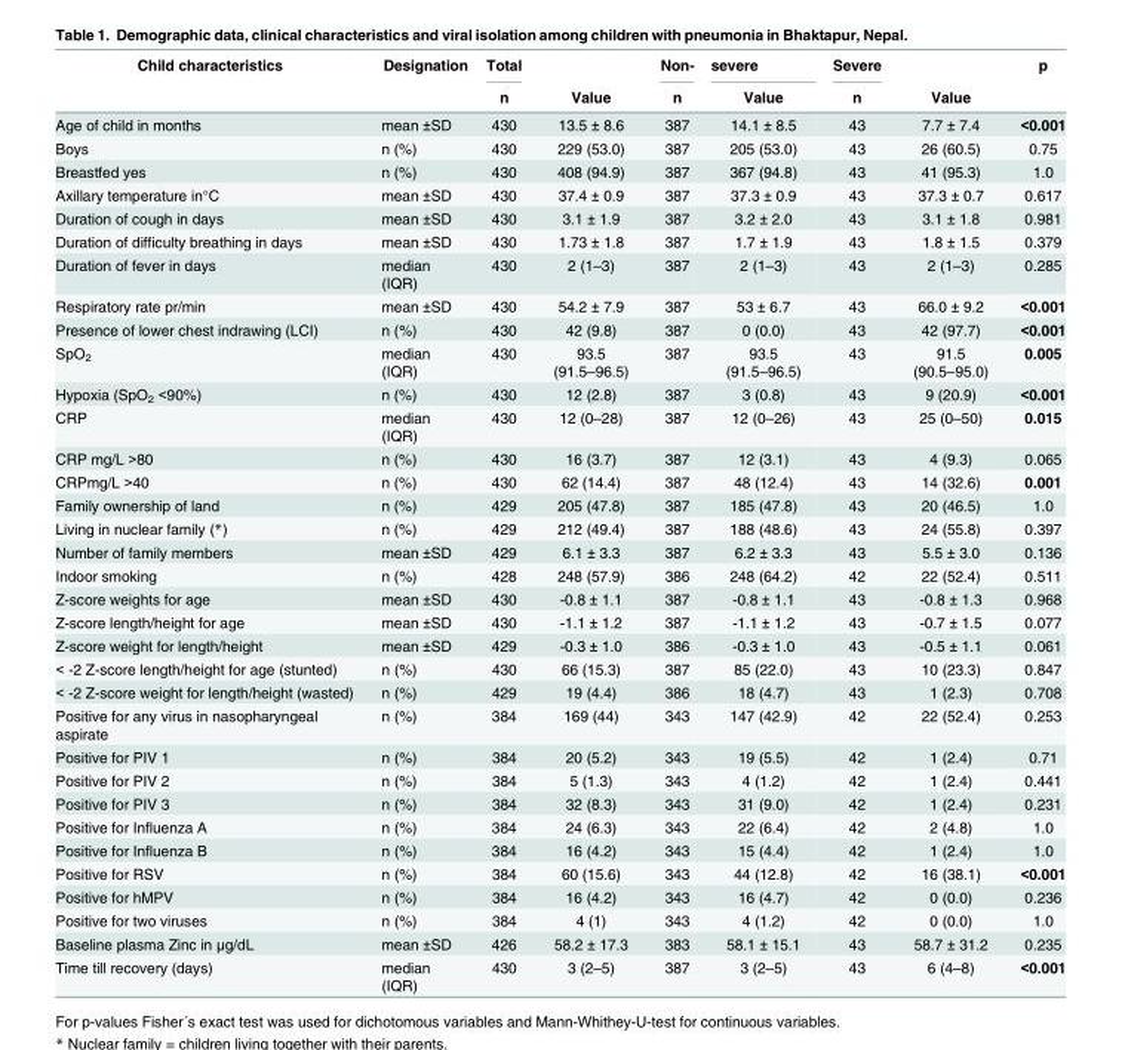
<table><thead><tr><td rowspan="2">Child characteristics</td><td rowspan="2">Designation</td><td rowspan="2">Total n</td><td rowspan="2">Value</td><td rowspan="2">Non- n</td><td rowspan="2">severe Value</td><td rowspan="2">Severe n</td><td rowspan="2">Value</td><td rowspan="2">p</td></tr><tr></tr></thead><tbody><tr><td>Age of child in months</td><td>mean ±SD</td><td>430</td><td>13.5 ± 8.6</td><td>387</td><td>14.1 ± 8.5</td><td>43</td><td>7.7 ± 7.4</td><td>&lt;0.001</td></tr><tr><td>Boys</td><td>n (%)</td><td>430</td><td>229 (53.0)</td><td>387</td><td>205 (53.0)</td><td>43</td><td>26 (60.5)</td><td>0.75</td></tr><tr><td>Breastfed yes</td><td>n (%)</td><td>430</td><td>408 (94.9)</td><td>387</td><td>367 (94.8)</td><td>43</td><td>41 (95.3)</td><td>1.0</td></tr><tr><td>Axillary temperature in°C</td><td>mean ±SD</td><td>430</td><td>37.4 ± 0.9</td><td>387</td><td>37.3 ± 0.9</td><td>43</td><td>37.3 ± 0.7</td><td>0.617</td></tr><tr><td>Duration of cough in days</td><td>mean ±SD</td><td>430</td><td>3.1 ± 1.9</td><td>387</td><td>3.2 ± 2.0</td><td>43</td><td>3.1 ± 1.8</td><td>0.981</td></tr><tr><td>Duration of difficulty breathing in days</td><td>mean ±SD</td><td>430</td><td>1.73 ± 1.8</td><td>387</td><td>1.7 ± 1.9</td><td>43</td><td>1.8 ± 1.5</td><td>0.379</td></tr><tr><td>Duration of fever in days</td><td>median (IQR)</td><td>430</td><td>2 (1–3)</td><td>387</td><td>2 (1–3)</td><td>43</td><td>2 (1–3)</td><td>0.285</td></tr><tr><td>Respiratory rate pr/min</td><td>mean ±SD</td><td>430</td><td>54.2 ± 7.9</td><td>387</td><td>53 ± 6.7</td><td>43</td><td>66.0 ± 9.2</td><td>&lt;0.001</td></tr><tr><td>Presence of lower chest indrawing (LCI)</td><td>n (%)</td><td>430</td><td>42 (9.8)</td><td>387</td><td>0 (0.0)</td><td>43</td><td>42 (97.7)</td><td>&lt;0.001</td></tr><tr><td>SpO<sub>2</sub></td><td>median (IQR)</td><td>430</td><td>93.5 (91.5–96.5)</td><td>387</td><td>93.5 (91.5–96.5)</td><td>43</td><td>91.5 (90.5–95.0)</td><td>0.005</td></tr><tr><td>Hypoxia (SpO<sub>2</sub> &lt;90%)</td><td>n (%)</td><td>430</td><td>12 (2.8)</td><td>387</td><td>3 (0.8)</td><td>43</td><td>9 (20.9)</td><td>&lt;0.001</td></tr><tr><td>CRP</td><td>median (IQR)</td><td>430</td><td>12 (0–28)</td><td>387</td><td>12 (0–26)</td><td>43</td><td>25 (0–50)</td><td>0.015</td></tr><tr><td>CRP mg/L &gt;80</td><td>n (%)</td><td>430</td><td>16 (3.7)</td><td>387</td><td>12 (3.1)</td><td>43</td><td>4 (9.3)</td><td>0.065</td></tr><tr><td>CRPmg/L &gt;40</td><td>n (%)</td><td>430</td><td>62 (14.4)</td><td>387</td><td>48 (12.4)</td><td>43</td><td>14 (32.6)</td><td>0.001</td></tr><tr><td>Family ownership of land</td><td>n (%)</td><td>429</td><td>205 (47.8)</td><td>387</td><td>185 (47.8)</td><td>43</td><td>20 (46.5)</td><td>1.0</td></tr><tr><td>Living in nuclear family (*)</td><td>n (%)</td><td>429</td><td>212 (49.4)</td><td>387</td><td>188 (48.6)</td><td>43</td><td>24 (55.8)</td><td>0.397</td></tr><tr><td>Number of family members</td><td>mean ±SD</td><td>429</td><td>6.1 ± 3.3</td><td>387</td><td>6.2 ± 3.3</td><td>43</td><td>5.5 ± 3.0</td><td>0.136</td></tr><tr><td>Indoor smoking</td><td>n (%)</td><td>428</td><td>248 (57.9)</td><td>386</td><td>248 (64.2)</td><td>42</td><td>22 (52.4)</td><td>0.511</td></tr><tr><td>Z-score weights for age</td><td>mean ±SD</td><td>430</td><td>-0.8 ± 1.1</td><td>387</td><td>-0.8 ± 1.1</td><td>43</td><td>-0.8 ± 1.3</td><td>0.968</td></tr><tr><td>Z-score length/height for age</td><td>mean ±SD</td><td>430</td><td>-1.1 ± 1.2</td><td>387</td><td>-1.1 ± 1.2</td><td>43</td><td>-0.7 ± 1.5</td><td>0.077</td></tr><tr><td>Z-score weight for length/height</td><td>mean ±SD</td><td>429</td><td>-0.3 ± 1.0</td><td>386</td><td>-0.3 ± 1.0</td><td>43</td><td>-0.5 ± 1.1</td><td>0.061</td></tr><tr><td>&lt; -2 Z-score length/height for age (stunted)</td><td>n (%)</td><td>430</td><td>66 (15.3)</td><td>387</td><td>85 (22.0)</td><td>43</td><td>10 (23.3)</td><td>0.847</td></tr><tr><td>&lt; -2 Z-score weight for length/height (wasted)</td><td>n (%)</td><td>429</td><td>19 (4.4)</td><td>386</td><td>18 (4.7)</td><td>43</td><td>1 (2.3)</td><td>0.708</td></tr><tr><td>Positive for any virus in nasopharyngeal aspirate</td><td>n (%)</td><td>384</td><td>169 (44)</td><td>343</td><td>147 (42.9)</td><td>42</td><td>22 (52.4)</td><td>0.253</td></tr><tr><td>Positive for PIV 1</td><td>n (%)</td><td>384</td><td>20 (5.2)</td><td>343</td><td>19 (5.5)</td><td>42</td><td>1 (2.4)</td><td>0.71</td></tr><tr><td>Positive for PIV 2</td><td>n (%)</td><td>384</td><td>5 (1.3)</td><td>343</td><td>4 (1.2)</td><td>42</td><td>1 (2.4)</td><td>0.441</td></tr><tr><td>Positive for PIV 3</td><td>n (%)</td><td>384</td><td>32 (8.3)</td><td>343</td><td>31 (9.0)</td><td>42</td><td>1 (2.4)</td><td>0.231</td></tr><tr><td>Positive for Influenza A</td><td>n (%)</td><td>384</td><td>24 (6.3)</td><td>343</td><td>22 (6.4)</td><td>42</td><td>2 (4.8)</td><td>1.0</td></tr><tr><td>Positive for Influenza B</td><td>n (%)</td><td>384</td><td>16 (4.2)</td><td>343</td><td>15 (4.4)</td><td>42</td><td>1 (2.4)</td><td>1.0</td></tr><tr><td>Positive for RSV</td><td>n (%)</td><td>384</td><td>60 (15.6)</td><td>343</td><td>44 (12.8)</td><td>42</td><td>16 (38.1)</td><td>&lt;0.001</td></tr><tr><td>Positive for hMPV</td><td>n (%)</td><td>384</td><td>16 (4.2)</td><td>343</td><td>16 (4.7)</td><td>42</td><td>0 (0.0)</td><td>0.236</td></tr><tr><td>Positive for two viruses</td><td>n (%)</td><td>384</td><td>4 (1)</td><td>343</td><td>4 (1.2)</td><td>42</td><td>0 (0.0)</td><td>1.0</td></tr><tr><td>Baseline plasma Zinc in μg/dL</td><td>mean ±SD</td><td>426</td><td>58.2 ± 17.3</td><td>383</td><td>58.1 ± 15.1</td><td>43</td><td>58.7 ± 31.2</td><td>0.235</td></tr><tr><td>Time till recovery (days)</td><td>median (IQR)</td><td>430</td><td>3 (2–5)</td><td>387</td><td>3 (2–5)</td><td>43</td><td>6 (4–8)</td><td>&lt;0.001</td></tr></tbody></table>